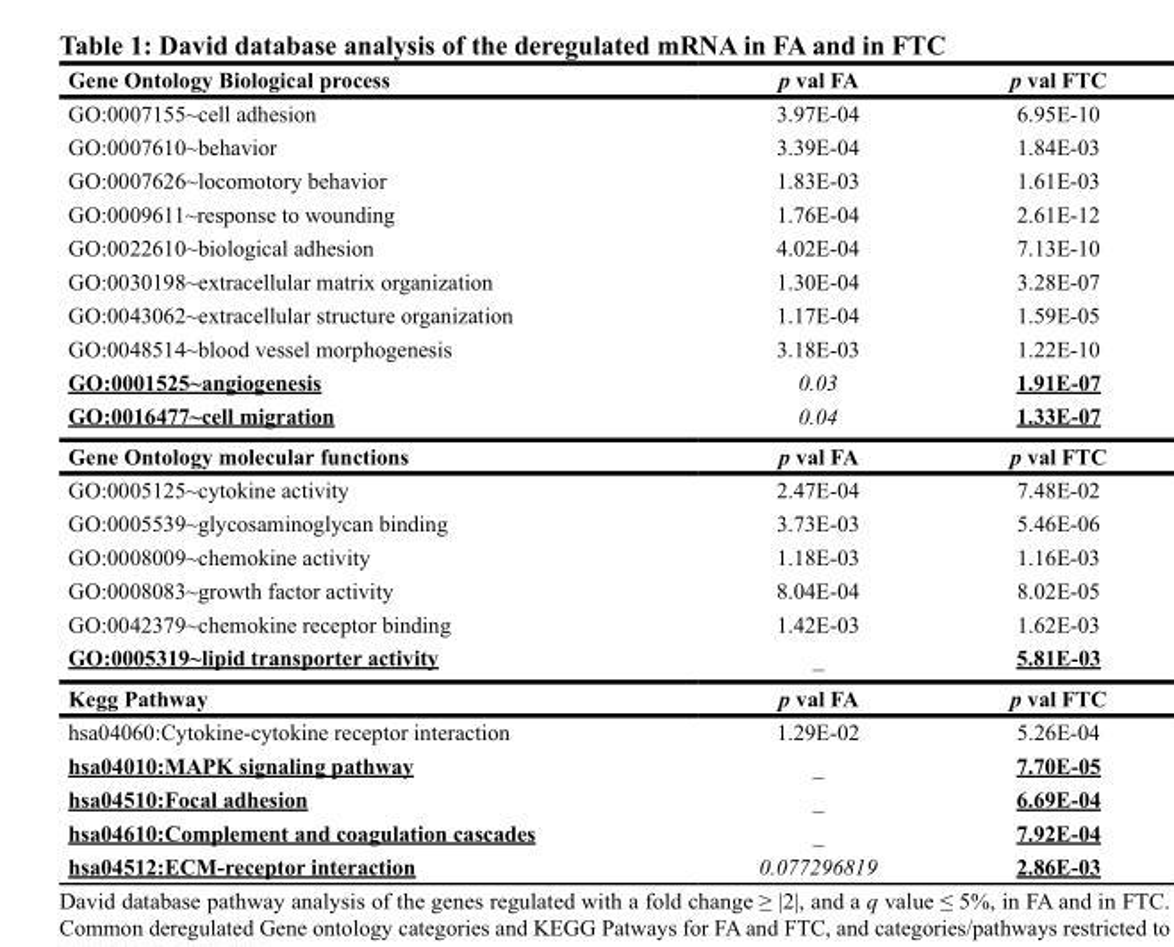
<table><thead><tr><td>Gene Ontology Biological process</td><td>p val FA</td><td>p val FTC</td></tr></thead><tbody><tr><td>GO:0007155~cell adhesion</td><td>3.97E-04</td><td>6.95E-10</td></tr><tr><td>GO:0007610~behavior</td><td>3.39E-04</td><td>1.84E-03</td></tr><tr><td>GO:0007626~locomotory behavior</td><td>1.83E-03</td><td>1.61E-03</td></tr><tr><td>GO:0009611~response to wounding</td><td>1.76E-04</td><td>2.61E-12</td></tr><tr><td>GO:0022610~biological adhesion</td><td>4.02E-04</td><td>7.13E-10</td></tr><tr><td>GO:0030198~extracellular matrix organization</td><td>1.30E-04</td><td>3.28E-07</td></tr><tr><td>GO:0043062~extracellular structure organization</td><td>1.17E-04</td><td>1.59E-05</td></tr><tr><td>GO:0048514~blood vessel morphogenesis</td><td>3.18E-03</td><td>1.22E-10</td></tr><tr><td>GO:0001525~angiogenesis</td><td>0.03</td><td>1.91E-07</td></tr><tr><td>GO:0016477~cell migration</td><td>0.04</td><td>1.33E-07</td></tr><tr><td>Gene Ontology molecular functions</td><td>p val FA</td><td>p val FTC</td></tr><tr><td>GO:0005125~cytokine activity</td><td>2.47E-04</td><td>7.48E-02</td></tr><tr><td>GO:0005539~glycosaminoglycan binding</td><td>3.73E-03</td><td>5.46E-06</td></tr><tr><td>GO:0008009~chemokine activity</td><td>1.18E-03</td><td>1.16E-03</td></tr><tr><td>GO:0008083~growth factor activity</td><td>8.04E-04</td><td>8.02E-05</td></tr><tr><td>GO:0042379~chemokine receptor binding</td><td>1.42E-03</td><td>1.62E-03</td></tr><tr><td>GO:0005319~lipid transporter activity</td><td>–</td><td>5.81E-03</td></tr><tr><td>Kegg Pathway</td><td>p val FA</td><td>p val FTC</td></tr><tr><td>hsa04060:Cytokine-cytokine receptor interaction</td><td>1.29E-02</td><td>5.26E-04</td></tr><tr><td>hsa04010:MAPK signaling pathway</td><td>–</td><td>7.70E-05</td></tr><tr><td>hsa04510:Focal adhesion</td><td>–</td><td>6.69E-04</td></tr><tr><td>hsa04610:Complement and coagulation cascades</td><td>–</td><td>7.92E-04</td></tr><tr><td>hsa04512:ECM-receptor interaction</td><td>0.077296819</td><td>2.86E-03</td></tr></tbody></table>